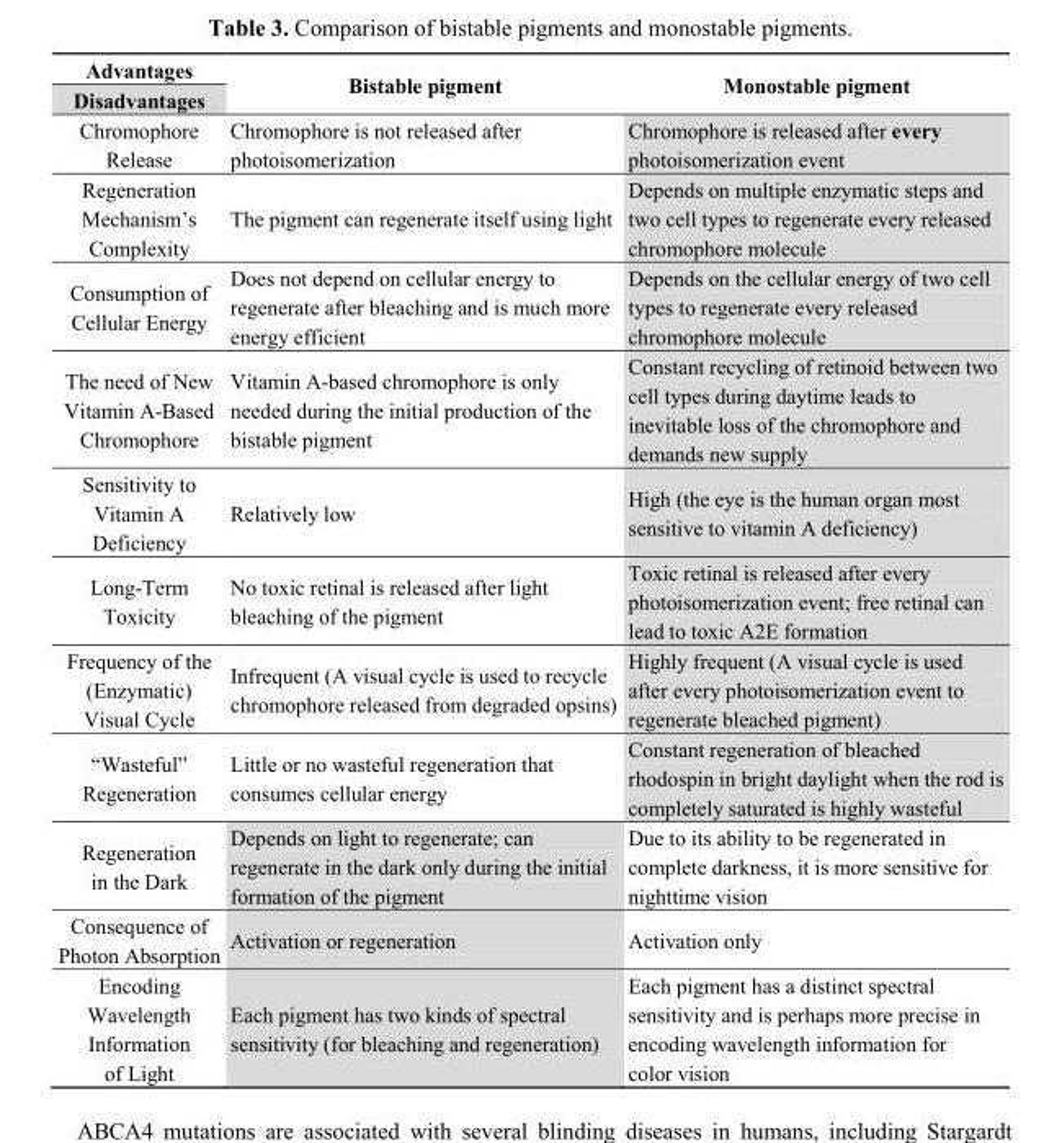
<table><thead><tr><td rowspan="2">Advantages Disadvantages</td><td rowspan="2">Bistable pigment</td><td rowspan="2">Monostable pigment</td></tr><tr></tr></thead><tbody><tr><td>Chromophore Release</td><td>Chromophore is not released after photoisomerization</td><td>Chromophore is released after every photoisomerization event</td></tr><tr><td>Regeneration Mechanism’s Complexity</td><td>The pigment can regenerate itself using light</td><td>Depends on multiple enzymatic steps and two cell types to regenerate every released chromophore molecule</td></tr><tr><td>Consumption of Cellular Energy</td><td>Does not depend on cellular energy to regenerate after bleaching and is much more energy efficient</td><td>Depends on the cellular energy of two cell types to regenerate every released chromophore molecule</td></tr><tr><td>The need of New Vitamin A-Based Chromophore</td><td>Vitamin A-based chromophore is only needed during the initial production of the bistable pigment</td><td>Constant recycling of retinoid between two cell types during daytime leads to inevitable loss of the chromophore and demands new supply</td></tr><tr><td>Sensitivity to Vitamin A Deficiency</td><td>Relatively low</td><td>High (the eye is the human organ most sensitive to vitamin A deficiency)</td></tr><tr><td>Long-Term Toxicity</td><td>No toxic retinal is released after light bleaching of the pigment</td><td>Toxic retinal is released after every photoisomerization event; free retinal can lead to toxic A2E formation</td></tr><tr><td>Frequency of the (Enzymatic) Visual Cycle</td><td>Infrequent (A visual cycle is used to recycle chromophore released from degraded opsins)</td><td>Highly frequent (A visual cycle is used after every photoisomerization event to regenerate bleached pigment)</td></tr><tr><td>―Wasteful‖ Regeneration</td><td>Little or no wasteful regeneration that consumes cellular energy</td><td>Constant regeneration of bleached rhodospin in bright daylight when the rod is completely saturated is highly wasteful</td></tr><tr><td>Regeneration in the Dark</td><td>Depends on light to regenerate; can regenerate in the dark only during the initial formation of the pigment</td><td>Due to its ability to be regenerated in complete darkness, it is more sensitive for nighttime vision</td></tr><tr><td>Consequence of Photon Absorption</td><td>Activation or regeneration</td><td>Activation only</td></tr><tr><td>Encoding Wavelength Information of Light</td><td>Each pigment has two kinds of spectral sensitivity (for bleaching and regeneration)</td><td>Each pigment has a distinct spectral sensitivity and is perhaps more precise in encoding wavelength information for color vision</td></tr></tbody></table>